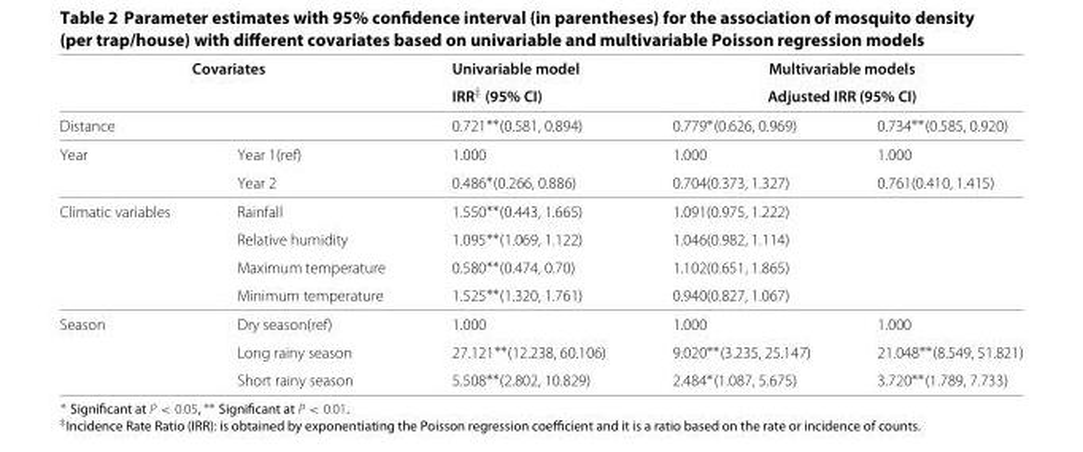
<table><thead><tr><td colspan="2">Covariates</td><td rowspan="3">Univariable model IRR<sup>‡</sup> (95% CI) 0.721∗∗(0.581, 0.894)</td><td rowspan="2" colspan="2">Multivariable models Adjusted IRR (95% CI)</td></tr><tr><td rowspan="2">Distance</td><td rowspan="2"></td></tr><tr><td>0.779∗(0.626, 0.969)</td><td>0.734∗∗(0.585, 0.920)</td></tr></thead><tbody><tr><td rowspan="2">Year</td><td>Year 1(ref)</td><td>1.000</td><td>1.000</td><td>1.000</td></tr><tr><td>Year 2</td><td>0.486∗(0.266, 0.886)</td><td>0.704(0.373, 1.327)</td><td>0.761(0.410, 1.415)</td></tr><tr><td rowspan="4">Climatic variables</td><td>Rainfall</td><td>1.550∗∗(0.443, 1.665)</td><td>1.091(0.975, 1.222)</td><td></td></tr><tr><td>Relative humidity</td><td>1.095∗∗(1.069, 1.122)</td><td>1.046(0.982, 1.114)</td><td></td></tr><tr><td>Maximum temperature</td><td>0.580∗∗(0.474, 0.70)</td><td>1.102(0.651, 1.865)</td><td></td></tr><tr><td>Minimum temperature</td><td>1.525∗∗(1.320, 1.761)</td><td>0.940(0.827, 1.067)</td><td></td></tr><tr><td rowspan="3">Season</td><td>Dry season(ref)</td><td>1.000</td><td>1.000</td><td>1.000</td></tr><tr><td>Long rainy season</td><td>27.121∗∗(12.238, 60.106)</td><td>9.020∗∗(3.235, 25.147)</td><td>21.048∗∗(8.549, 51.821)</td></tr><tr><td>Short rainy season</td><td>5.508∗∗(2.802, 10.829)</td><td>2.484∗(1.087, 5.675)</td><td>3.720∗∗(1.789, 7.733)</td></tr></tbody></table>